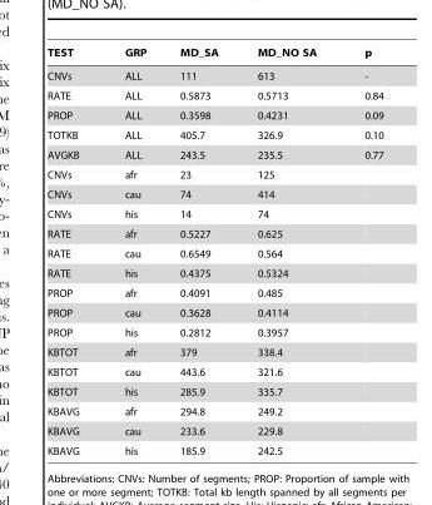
<table><thead><tr><td>TEST</td><td>GRP</td><td>MD_SA</td><td>MD_NO SA</td><td>p</td></tr></thead><tbody><tr><td>CNVs</td><td>ALL</td><td>111</td><td>613</td><td>-</td></tr><tr><td>RATE</td><td>ALL</td><td>0.5873</td><td>0.5713</td><td>0.84</td></tr><tr><td>PROP</td><td>ALL</td><td>0.3598</td><td>0.4231</td><td>0.09</td></tr><tr><td>TOTKB</td><td>ALL</td><td>405.7</td><td>326.9</td><td>0.10</td></tr><tr><td>AVGKB</td><td>ALL</td><td>243.5</td><td>235.5</td><td>0.77</td></tr><tr><td>CNVs</td><td>afr</td><td>23</td><td>125</td><td></td></tr><tr><td>CNVs</td><td>cau</td><td>74</td><td>414</td><td></td></tr><tr><td>CNVs</td><td>his</td><td>14</td><td>74</td><td></td></tr><tr><td>RATE</td><td>afr</td><td>0.5227</td><td>0.625</td><td></td></tr><tr><td>RATE</td><td>cau</td><td>0.6549</td><td>0.564</td><td></td></tr><tr><td>RATE</td><td>his</td><td>0.4375</td><td>0.5324</td><td></td></tr><tr><td>PROP</td><td>afr</td><td>0.4091</td><td>0.485</td><td></td></tr><tr><td>PROP</td><td>cau</td><td>0.3628</td><td>0.4114</td><td></td></tr><tr><td>PROP</td><td>his</td><td>0.2812</td><td>0.3957</td><td></td></tr><tr><td>KBTOT</td><td>afr</td><td>379</td><td>338.4</td><td></td></tr><tr><td>KBTOT</td><td>cau</td><td>443.6</td><td>321.6</td><td></td></tr><tr><td>KBTOT</td><td>his</td><td>285.9</td><td>335.7</td><td></td></tr><tr><td>KBAVG</td><td>afr</td><td>294.8</td><td>249.2</td><td></td></tr><tr><td>KBAVG</td><td>cau</td><td>233.6</td><td>229.8</td><td></td></tr><tr><td>KBAVG</td><td>his</td><td>185.9</td><td>242.5</td><td></td></tr></tbody></table>